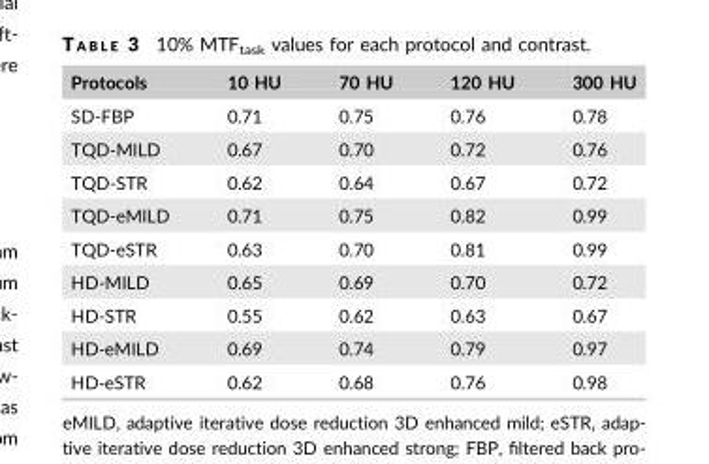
<table><thead><tr><td>Protocols</td><td>10 HU</td><td>70 HU</td><td>120 HU</td><td>300 HU</td></tr></thead><tbody><tr><td>SD-FBP</td><td>0.71</td><td>0.75</td><td>0.76</td><td>0.78</td></tr><tr><td>TQD-MILD</td><td>0.67</td><td>0.70</td><td>0.72</td><td>0.76</td></tr><tr><td>TQD-STR</td><td>0.62</td><td>0.64</td><td>0.67</td><td>0.72</td></tr><tr><td>TQD-eMILD</td><td>0.71</td><td>0.75</td><td>0.82</td><td>0.99</td></tr><tr><td>TQD-eSTR</td><td>0.63</td><td>0.70</td><td>0.81</td><td>0.99</td></tr><tr><td>HD-MILD</td><td>0.65</td><td>0.69</td><td>0.70</td><td>0.72</td></tr><tr><td>HD-STR</td><td>0.55</td><td>0.62</td><td>0.63</td><td>0.67</td></tr><tr><td>HD-eMILD</td><td>0.69</td><td>0.74</td><td>0.79</td><td>0.97</td></tr><tr><td>HD-eSTR</td><td>0.62</td><td>0.68</td><td>0.76</td><td>0.98</td></tr></tbody></table>